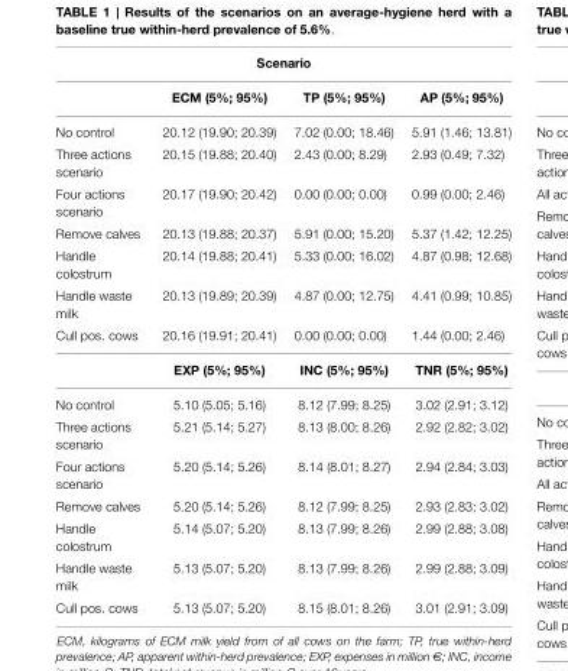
<table><thead><tr><td colspan="4">Scenario</td></tr><tr><td></td><td>ECM (5%; 95%)</td><td>TP (5%; 95%)</td><td>AP (5%; 95%)</td></tr></thead><tbody><tr><td>No control</td><td>20.12 (19.90; 20.39)</td><td>7.02 (0.00; 18.46)</td><td>5.91 (1.46; 13.81)</td></tr><tr><td>Three actions scenario</td><td>20.15 (19.88; 20.40)</td><td>2.43 (0.00; 8.29)</td><td>2.93 (0.49; 7.32)</td></tr><tr><td>Four actions scenario</td><td>20.17 (19.90; 20.42)</td><td>0.00 (0.00; 0.00)</td><td>0.99 (0.00; 2.46)</td></tr><tr><td>Remove calves</td><td>20.13 (19.88; 20.37)</td><td>5.91 (0.00; 15.20)</td><td>5.37 (1.42; 12.25)</td></tr><tr><td>Handle colostrum</td><td>20.14 (19.88; 20.41)</td><td>5.33 (0.00; 16.02)</td><td>4.87 (0.98; 12.68)</td></tr><tr><td>Handle waste milk</td><td>20.13 (19.89; 20.39)</td><td>4.87 (0.00; 12.75)</td><td>4.41 (0.99; 10.85)</td></tr><tr><td rowspan="2">Cull pos. cows</td><td>20.16 (19.91; 20.41)</td><td>0.00 (0.00; 0.00)</td><td>1.44 (0.00; 2.46)</td></tr><tr><td>EXP (5%; 95%)</td><td>INC (5%; 95%)</td><td>TNR (5%; 95%)</td></tr><tr><td>No control</td><td>5.10 (5.05; 5.16)</td><td>8.12 (7.99; 8.25)</td><td>3.02 (2.91; 3.12)</td></tr><tr><td>Three actions scenario</td><td>5.21 (5.14; 5.27)</td><td>8.13 (8.00; 8.26)</td><td>2.92 (2.82; 3.02)</td></tr><tr><td>Four actions scenario</td><td>5.20 (5.14; 5.26)</td><td>8.14 (8.01; 8.27)</td><td>2.94 (2.84; 3.03)</td></tr><tr><td>Remove calves</td><td>5.20 (5.14; 5.26)</td><td>8.12 (7.99; 8.25)</td><td>2.93 (2.83; 3.02)</td></tr><tr><td>Handle colostrum</td><td>5.14 (5.07; 5.20)</td><td>8.13 (7.99; 8.26)</td><td>2.99 (2.88; 3.08)</td></tr><tr><td>Handle waste milk</td><td>5.13 (5.07; 5.20)</td><td>8.13 (7.99; 8.26)</td><td>2.99 (2.88; 3.09)</td></tr><tr><td>Cull pos. cows</td><td>5.13 (5.07; 5.20)</td><td>8.15 (8.01; 8.26)</td><td>3.01 (2.91; 3.09)</td></tr></tbody></table>